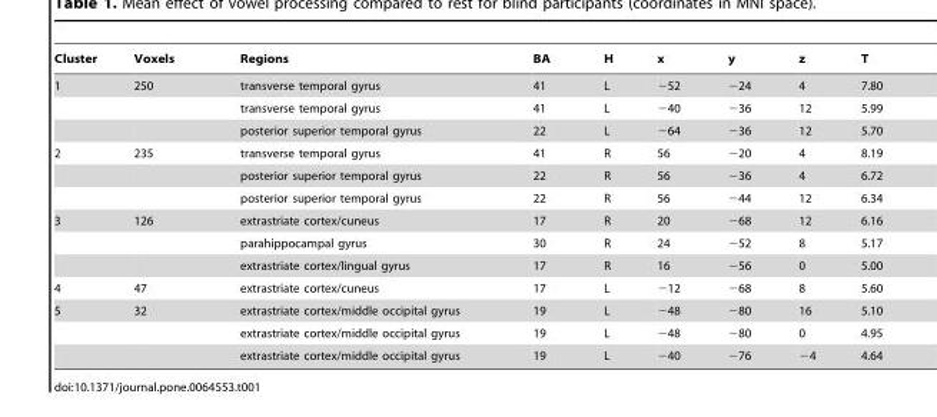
<table><thead><tr><td>Cluster</td><td>Voxels</td><td>Regions</td><td>BA</td><td>H</td><td>x</td><td>y</td><td>z</td><td>T</td></tr></thead><tbody><tr><td rowspan="3">1</td><td>250</td><td>transverse temporal gyrus</td><td>41</td><td>L</td><td>−52</td><td>−24</td><td>4</td><td>7.80</td></tr><tr><td></td><td>transverse temporal gyrus</td><td>41</td><td>L</td><td>−40</td><td>−36</td><td>12</td><td>5.99</td></tr><tr><td></td><td>posterior superior temporal gyrus</td><td>22</td><td>L</td><td>−64</td><td>−36</td><td>12</td><td>5.70</td></tr><tr><td rowspan="3">2</td><td>235</td><td>transverse temporal gyrus</td><td>41</td><td>R</td><td>56</td><td>−20</td><td>4</td><td>8.19</td></tr><tr><td></td><td>posterior superior temporal gyrus</td><td>22</td><td>R</td><td>56</td><td>−36</td><td>4</td><td>6.72</td></tr><tr><td></td><td>posterior superior temporal gyrus</td><td>22</td><td>R</td><td>56</td><td>−44</td><td>12</td><td>6.34</td></tr><tr><td rowspan="3">3</td><td>126</td><td>extrastriate cortex/cuneus</td><td>17</td><td>R</td><td>20</td><td>−68</td><td>12</td><td>6.16</td></tr><tr><td></td><td>parahippocampal gyrus</td><td>30</td><td>R</td><td>24</td><td>−52</td><td>8</td><td>5.17</td></tr><tr><td></td><td>extrastriate cortex/lingual gyrus</td><td>17</td><td>R</td><td>16</td><td>−56</td><td>0</td><td>5.00</td></tr><tr><td>4</td><td>47</td><td>extrastriate cortex/cuneus</td><td>17</td><td>L</td><td>−12</td><td>−68</td><td>8</td><td>5.60</td></tr><tr><td rowspan="3">5</td><td>32</td><td>extrastriate cortex/middle occipital gyrus</td><td>19</td><td>L</td><td>−48</td><td>−80</td><td>16</td><td>5.10</td></tr><tr><td></td><td>extrastriate cortex/middle occipital gyrus</td><td>19</td><td>L</td><td>−48</td><td>−80</td><td>0</td><td>4.95</td></tr><tr><td></td><td>extrastriate cortex/middle occipital gyrus</td><td>19</td><td>L</td><td>−40</td><td>−76</td><td>−4</td><td>4.64</td></tr></tbody></table>